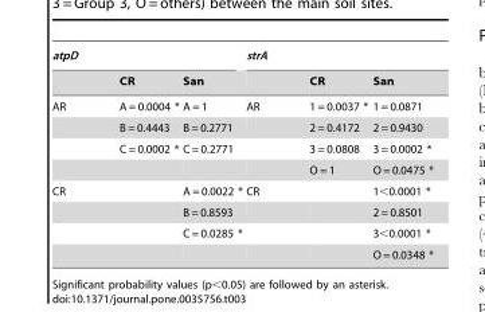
<table><thead><tr><td colspan="3">atpD</td><td colspan="3">strA</td></tr><tr><td></td><td>CR</td><td>San</td><td></td><td>CR</td><td>San</td></tr></thead><tbody><tr><td rowspan="4">AR</td><td>A = 0.0004 *</td><td>A = 1</td><td>AR</td><td>1 = 0.0037 *</td><td>1 = 0.0871</td></tr><tr><td>B = 0.4443</td><td>B = 0.2771</td><td></td><td>2 = 0.4172</td><td>2 = 0.9430</td></tr><tr><td>C = 0.0002 *</td><td>C = 0.2771</td><td></td><td>3 = 0.0808</td><td>3 = 0.0002 *</td></tr><tr><td></td><td></td><td></td><td>O = 1</td><td>O = 0.0475 *</td></tr><tr><td rowspan="4">CR</td><td></td><td>A = 0.0022 *</td><td>CR</td><td></td><td>1&lt;0.0001 *</td></tr><tr><td></td><td>B = 0.8593</td><td></td><td></td><td>2 = 0.8501</td></tr><tr><td></td><td>C = 0.0285 *</td><td></td><td></td><td>3&lt;0.0001 *</td></tr><tr><td></td><td></td><td></td><td></td><td>O = 0.0348 *</td></tr></tbody></table>